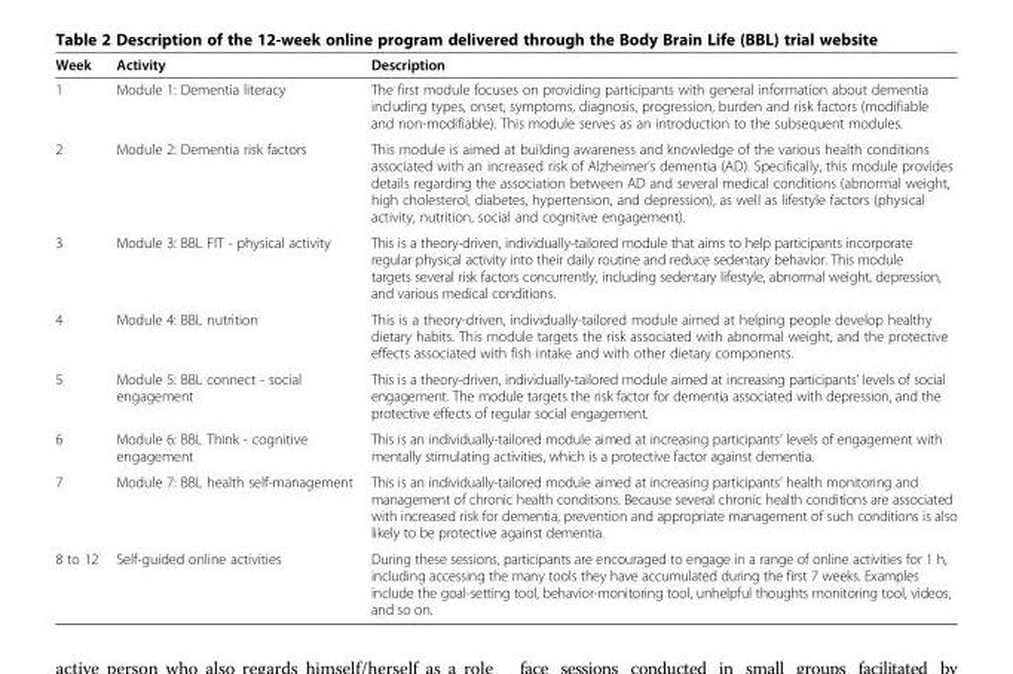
<table><thead><tr><td>Week</td><td>Activity</td><td>Description</td></tr></thead><tbody><tr><td>1</td><td>Module 1: Dementia literacy</td><td>The first module focuses on providing participants with general information about dementia including types, onset, symptoms, diagnosis, progression, burden and risk factors (modifiable and non-modifiable). This module serves as an introduction to the subsequent modules.</td></tr><tr><td>2</td><td>Module 2: Dementia risk factors</td><td>This module is aimed at building awareness and knowledge of the various health conditions associated with an increased risk of Alzheimer’s dementia (AD). Specifically, this module provides details regarding the association between AD and several medical conditions (abnormal weight, high cholesterol, diabetes, hypertension, and depression), as well as lifestyle factors (physical activity, nutrition, social and cognitive engagement).</td></tr><tr><td>3</td><td>Module 3: BBL FIT - physical activity</td><td>This is a theory-driven, individually-tailored module that aims to help participants incorporate regular physical activity into their daily routine and reduce sedentary behavior. This module targets several risk factors concurrently, including sedentary lifestyle, abnormal weight, depression, and various medical conditions.</td></tr><tr><td>4</td><td>Module 4: BBL nutrition</td><td>This is a theory-driven, individually-tailored module aimed at helping people develop healthy dietary habits. This module targets the risk associated with abnormal weight, and the protective effects associated with fish intake and with other dietary components.</td></tr><tr><td>5</td><td>Module 5: BBL connect - social engagement</td><td>This is a theory-driven, individually-tailored module aimed at increasing participants’ levels of social engagement. The module targets the risk factor for dementia associated with depression, and the protective effects of regular social engagement.</td></tr><tr><td>6</td><td>Module 6: BBL Think - cognitive engagement</td><td>This is an individually-tailored module aimed at increasing participants’ levels of engagement with mentally stimulating activities, which is a protective factor against dementia.</td></tr><tr><td>7</td><td>Module 7: BBL health self-management</td><td>This is an individually-tailored module aimed at increasing participants’ health monitoring and management of chronic health conditions. Because several chronic health conditions are associated with increased risk for dementia, prevention and appropriate management of such conditions is also likely to be protective against dementia.</td></tr><tr><td>8 to 12</td><td>Self-guided online activities</td><td>During these sessions, participants are encouraged to engage in a range of online activities for 1 h, including accessing the many tools they have accumulated during the first 7 weeks. Examples include the goal-setting tool, behavior-monitoring tool, unhelpful thoughts monitoring tool, videos, and so on.</td></tr></tbody></table>